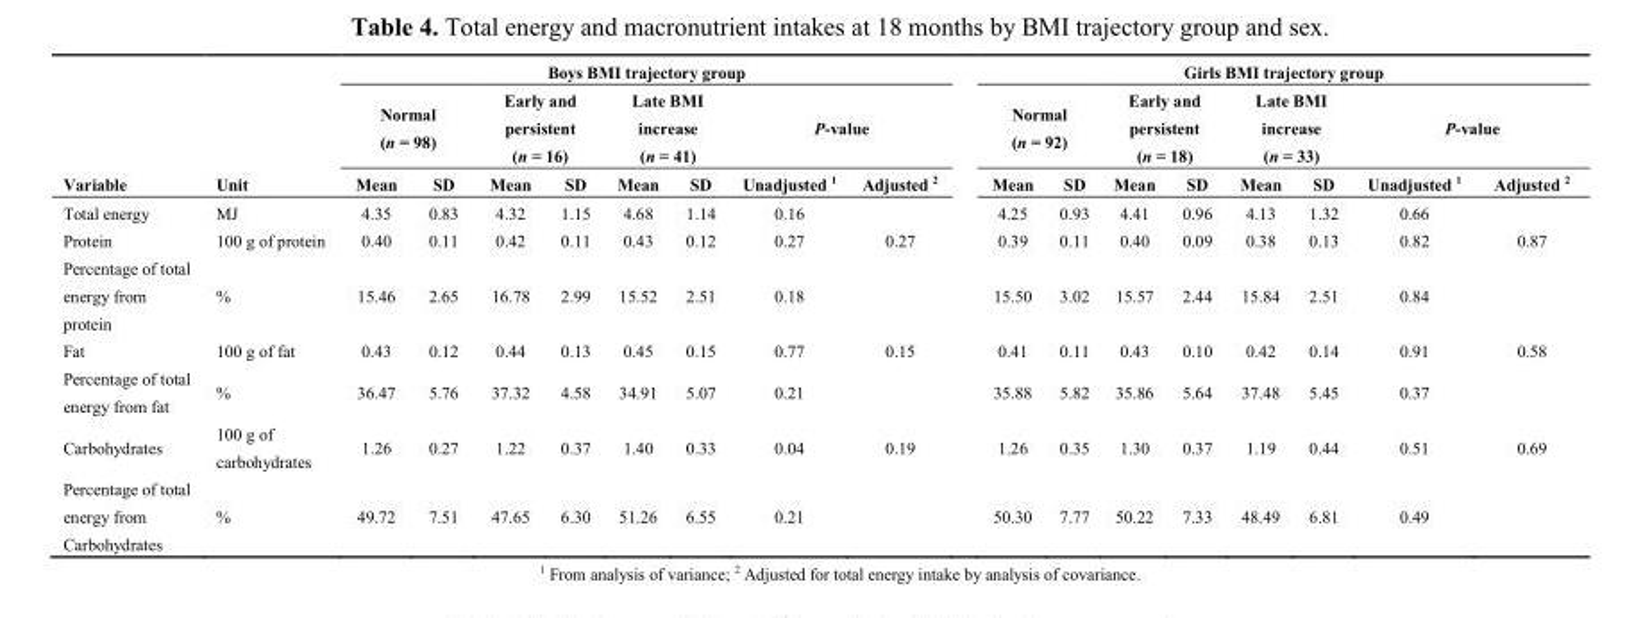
<table><thead><tr><td rowspan="3">Variable</td><td rowspan="3">Unit</td><td colspan="8">Boys BMI trajectory group</td><td colspan="8">Girls BMI trajectory group</td></tr><tr><td colspan="2">Normal (n = 98)</td><td colspan="2">Early and persistent (n = 16)</td><td colspan="2">Late BMI increase (n = 41)</td><td colspan="2">P-value</td><td colspan="2">Normal (n = 92)</td><td colspan="2">Early and persistent (n = 18)</td><td colspan="2">Late BMI increase (n = 33)</td><td colspan="2">P-value</td></tr><tr><td>Mean</td><td>SD</td><td>Mean</td><td>SD</td><td>Mean</td><td>SD</td><td>Unadjusted <sup>1</sup></td><td>Adjusted <sup>2</sup></td><td>Mean</td><td>SD</td><td>Mean</td><td>SD</td><td>Mean</td><td>SD</td><td>Unadjusted <sup>1</sup></td><td>Adjusted <sup>2</sup></td></tr></thead><tbody><tr><td>Total energy</td><td>MJ</td><td>4.35</td><td>0.83</td><td>4.32</td><td>1.15</td><td>4.68</td><td>1.14</td><td>0.16</td><td></td><td>4.25</td><td>0.93</td><td>4.41</td><td>0.96</td><td>4.13</td><td>1.32</td><td>0.66</td><td></td></tr><tr><td>Protein</td><td>100 g of protein</td><td>0.40</td><td>0.11</td><td>0.42</td><td>0.11</td><td>0.43</td><td>0.12</td><td>0.27</td><td>0.27</td><td>0.39</td><td>0.11</td><td>0.40</td><td>0.09</td><td>0.38</td><td>0.13</td><td>0.82</td><td>0.87</td></tr><tr><td>Percentage of total energy from protein</td><td>%</td><td>15.46</td><td>2.65</td><td>16.78</td><td>2.99</td><td>15.52</td><td>2.51</td><td>0.18</td><td></td><td>15.50</td><td>3.02</td><td>15.57</td><td>2.44</td><td>15.84</td><td>2.51</td><td>0.84</td><td></td></tr><tr><td>Fat</td><td>100 g of fat</td><td>0.43</td><td>0.12</td><td>0.44</td><td>0.13</td><td>0.45</td><td>0.15</td><td>0.77</td><td>0.15</td><td>0.41</td><td>0.11</td><td>0.43</td><td>0.10</td><td>0.42</td><td>0.14</td><td>0.91</td><td>0.58</td></tr><tr><td>Percentage of total energy from fat</td><td>%</td><td>36.47</td><td>5.76</td><td>37.32</td><td>4.58</td><td>34.91</td><td>5.07</td><td>0.21</td><td></td><td>35.88</td><td>5.82</td><td>35.86</td><td>5.64</td><td>37.48</td><td>5.45</td><td>0.37</td><td></td></tr><tr><td>Carbohydrates</td><td>100 g of carbohydrates</td><td>1.26</td><td>0.27</td><td>1.22</td><td>0.37</td><td>1.40</td><td>0.33</td><td>0.04</td><td>0.19</td><td>1.26</td><td>0.35</td><td>1.30</td><td>0.37</td><td>1.19</td><td>0.44</td><td>0.51</td><td>0.69</td></tr><tr><td>Percentage of total energy from Carbohydrates</td><td>%</td><td>49.72</td><td>7.51</td><td>47.65</td><td>6.30</td><td>51.26</td><td>6.55</td><td>0.21</td><td></td><td>50.30</td><td>7.77</td><td>50.22</td><td>7.33</td><td>48.49</td><td>6.81</td><td>0.49</td><td></td></tr></tbody></table>